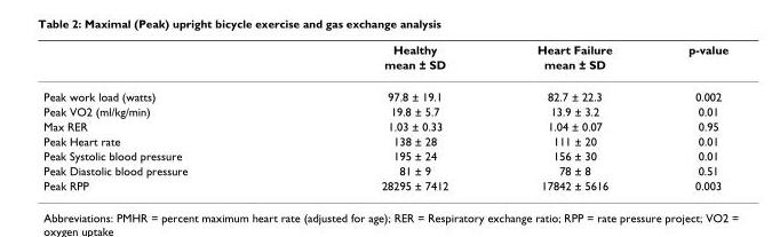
<table><thead><tr><td rowspan="2"></td><td rowspan="2">Healthy mean ± SD</td><td rowspan="2">Heart Failure mean ± SD</td><td rowspan="2">p-value</td></tr><tr></tr></thead><tbody><tr><td>Peak work load (watts)</td><td>97.8 ± 19.1</td><td>82.7 ± 22.3</td><td>0.002</td></tr><tr><td>Peak VO2 (ml/kg/min)</td><td>19.8 ± 5.7</td><td>13.9 ± 3.2</td><td>0.01</td></tr><tr><td>Max RER</td><td>1.03 ± 0.33</td><td>1.04 ± 0.07</td><td>0.95</td></tr><tr><td>Peak Heart rate</td><td>138 ± 28</td><td>111 ± 20</td><td>0.01</td></tr><tr><td>Peak Systolic blood pressure</td><td>195 ± 24</td><td>156 ± 30</td><td>0.01</td></tr><tr><td>Peak Diastolic blood pressure</td><td>81 ± 9</td><td>78 ± 8</td><td>0.51</td></tr><tr><td>Peak RPP</td><td>28295 ± 7412</td><td>17842 ± 5616</td><td>0.003</td></tr></tbody></table>